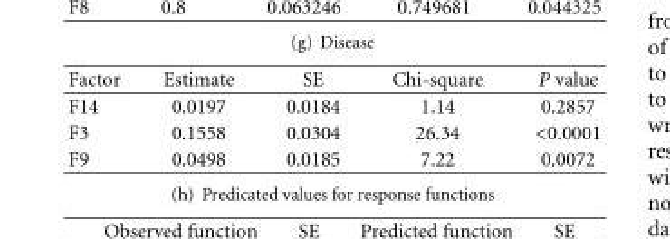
<table><thead><tr><td>Factor</td><td>Estimate</td><td>SE</td><td>Chi-square</td><td>P value</td></tr></thead><tbody><tr><td>F14</td><td>0.0197</td><td>0.0184</td><td>1.14</td><td>0.2857</td></tr><tr><td>F3</td><td>0.1558</td><td>0.0304</td><td>26.34</td><td>&lt;0.0001</td></tr><tr><td>F9</td><td>0.0498</td><td>0.0185</td><td>7.22</td><td>0.0072</td></tr></tbody></table>